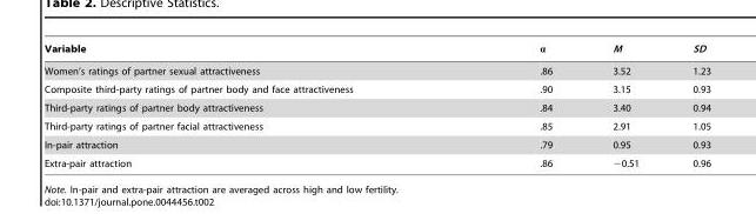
<table><thead><tr><td>Variable</td><td>α</td><td>M</td><td>SD</td></tr></thead><tbody><tr><td>Women’s ratings of partner sexual attractiveness</td><td>.86</td><td>3.52</td><td>1.23</td></tr><tr><td>Composite third-party ratings of partner body and face attractiveness</td><td>.90</td><td>3.15</td><td>0.93</td></tr><tr><td>Third-party ratings of partner body attractiveness</td><td>.84</td><td>3.40</td><td>0.94</td></tr><tr><td>Third-party ratings of partner facial attractiveness</td><td>.85</td><td>2.91</td><td>1.05</td></tr><tr><td>In-pair attraction</td><td>.79</td><td>0.95</td><td>0.93</td></tr><tr><td>Extra-pair attraction</td><td>.86</td><td>−0.51</td><td>0.96</td></tr></tbody></table>